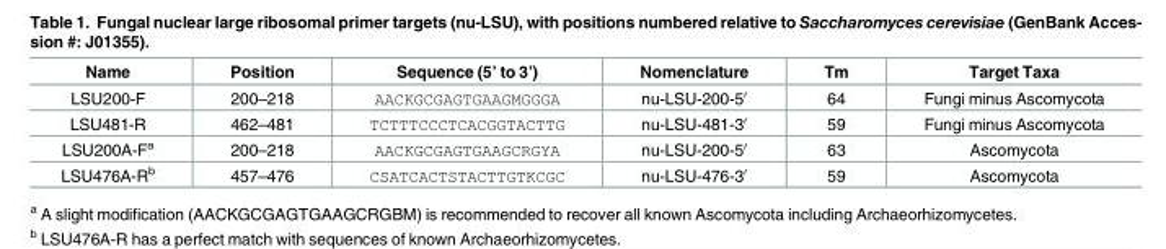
<table><thead><tr><td>Name</td><td>Position</td><td>Sequence (5’ to 3’)</td><td>Nomenclature</td><td>Tm</td><td>Target Taxa</td></tr></thead><tbody><tr><td>LSU200-F</td><td>200–218</td><td>AACKGCGAGTGAAGMGGGA</td><td>nu-LSU-200-5′</td><td>64</td><td>Fungi minus Ascomycota</td></tr><tr><td>LSU481-R</td><td>462–481</td><td>TCTTTCCCTCACGGTACTTG</td><td>nu-LSU-481-3′</td><td>59</td><td>Fungi minus Ascomycota</td></tr><tr><td>LSU200A-F<sup>a</sup></td><td>200–218</td><td>AACKGCGAGTGAAGCRGYA</td><td>nu-LSU-200-5′</td><td>63</td><td>Ascomycota</td></tr><tr><td>LSU476A-R<sup>b</sup></td><td>457–476</td><td>CSATCACTSTACTTGTKCGC</td><td>nu-LSU-476-3′</td><td>59</td><td>Ascomycota</td></tr></tbody></table>